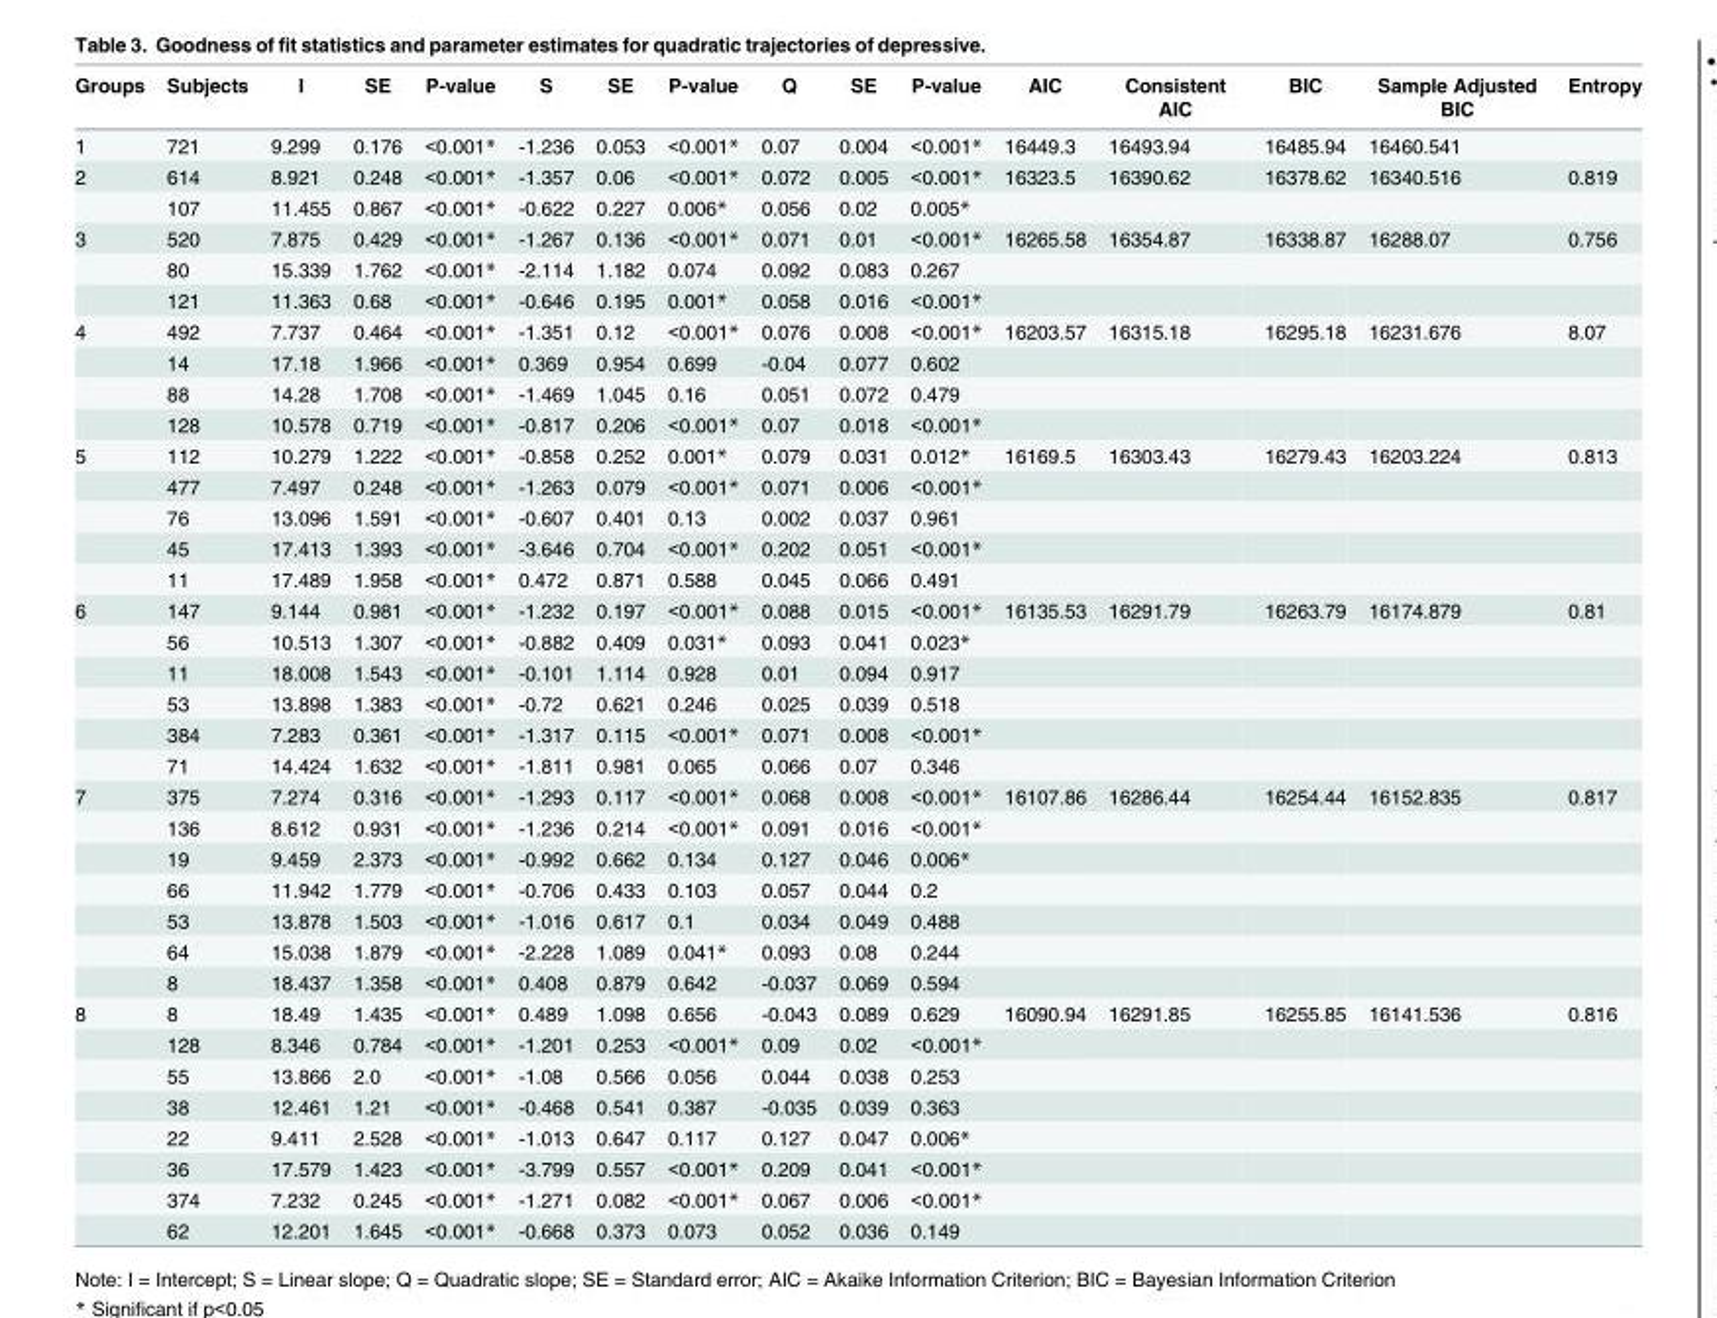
<table><thead><tr><td>Groups</td><td>Subjects</td><td>I</td><td>SE</td><td>P-value</td><td>S</td><td>SE</td><td>P-value</td><td>Q</td><td>SE</td><td>P-value</td><td>AIC</td><td>Consistent AIC</td><td>BIC</td><td>Sample Adjusted BIC</td><td>Entropy</td></tr></thead><tbody><tr><td>1</td><td>721</td><td>9.299</td><td>0.176</td><td>&lt;0.001*</td><td>-1.236</td><td>0.053</td><td>&lt;0.001*</td><td>0.07</td><td>0.004</td><td>&lt;0.001*</td><td>16449.3</td><td>16493.94</td><td>16485.94</td><td>16460.541</td><td></td></tr><tr><td rowspan="2">2</td><td>614</td><td>8.921</td><td>0.248</td><td>&lt;0.001*</td><td>-1.357</td><td>0.06</td><td>&lt;0.001*</td><td>0.072</td><td>0.005</td><td>&lt;0.001*</td><td>16323.5</td><td>16390.62</td><td>16378.62</td><td>16340.516</td><td>0.819</td></tr><tr><td>107</td><td>11.455</td><td>0.867</td><td>&lt;0.001*</td><td>-0.622</td><td>0.227</td><td>0.006*</td><td>0.056</td><td>0.02</td><td>0.005*</td><td></td><td></td><td></td><td></td><td></td></tr><tr><td rowspan="3">3</td><td>520</td><td>7.875</td><td>0.429</td><td>&lt;0.001*</td><td>-1.267</td><td>0.136</td><td>&lt;0.001*</td><td>0.071</td><td>0.01</td><td>&lt;0.001*</td><td>16265.58</td><td>16354.87</td><td>16338.87</td><td>16288.07</td><td>0.756</td></tr><tr><td>80</td><td>15.339</td><td>1.762</td><td>&lt;0.001*</td><td>-2.114</td><td>1.182</td><td>0.074</td><td>0.092</td><td>0.083</td><td>0.267</td><td></td><td></td><td></td><td></td><td></td></tr><tr><td>121</td><td>11.363</td><td>0.68</td><td>&lt;0.001*</td><td>-0.646</td><td>0.195</td><td>0.001*</td><td>0.058</td><td>0.016</td><td>&lt;0.001*</td><td></td><td></td><td></td><td></td><td></td></tr><tr><td rowspan="4">4</td><td>492</td><td>7.737</td><td>0.464</td><td>&lt;0.001*</td><td>-1.351</td><td>0.12</td><td>&lt;0.001*</td><td>0.076</td><td>0.008</td><td>&lt;0.001*</td><td>16203.57</td><td>16315.18</td><td>16295.18</td><td>16231.676</td><td>8.07</td></tr><tr><td>14</td><td>17.18</td><td>1.966</td><td>&lt;0.001*</td><td>0.369</td><td>0.954</td><td>0.699</td><td>-0.04</td><td>0.077</td><td>0.602</td><td></td><td></td><td></td><td></td><td></td></tr><tr><td>88</td><td>14.28</td><td>1.708</td><td>&lt;0.001*</td><td>-1.469</td><td>1.045</td><td>0.16</td><td>0.051</td><td>0.072</td><td>0.479</td><td></td><td></td><td></td><td></td><td></td></tr><tr><td>128</td><td>10.578</td><td>0.719</td><td>&lt;0.001*</td><td>-0.817</td><td>0.206</td><td>&lt;0.001*</td><td>0.07</td><td>0.018</td><td>&lt;0.001*</td><td></td><td></td><td></td><td></td><td></td></tr><tr><td rowspan="5">5</td><td>112</td><td>10.279</td><td>1.222</td><td>&lt;0.001*</td><td>-0.858</td><td>0.252</td><td>0.001*</td><td>0.079</td><td>0.031</td><td>0.012*</td><td>16169.5</td><td>16303.43</td><td>16279.43</td><td>16203.224</td><td>0.813</td></tr><tr><td>477</td><td>7.497</td><td>0.248</td><td>&lt;0.001*</td><td>-1.263</td><td>0.079</td><td>&lt;0.001*</td><td>0.071</td><td>0.006</td><td>&lt;0.001*</td><td></td><td></td><td></td><td></td><td></td></tr><tr><td>76</td><td>13.096</td><td>1.591</td><td>&lt;0.001*</td><td>-0.607</td><td>0.401</td><td>0.13</td><td>0.002</td><td>0.037</td><td>0.961</td><td></td><td></td><td></td><td></td><td></td></tr><tr><td>45</td><td>17.413</td><td>1.393</td><td>&lt;0.001*</td><td>-3.646</td><td>0.704</td><td>&lt;0.001*</td><td>0.202</td><td>0.051</td><td>&lt;0.001*</td><td></td><td></td><td></td><td></td><td></td></tr><tr><td>11</td><td>17.489</td><td>1.958</td><td>&lt;0.001*</td><td>0.472</td><td>0.871</td><td>0.588</td><td>0.045</td><td>0.066</td><td>0.491</td><td></td><td></td><td></td><td></td><td></td></tr><tr><td rowspan="6">6</td><td>147</td><td>9.144</td><td>0.981</td><td>&lt;0.001*</td><td>-1.232</td><td>0.197</td><td>&lt;0.001*</td><td>0.088</td><td>0.015</td><td>&lt;0.001*</td><td>16135.53</td><td>16291.79</td><td>16263.79</td><td>16174.879</td><td>0.81</td></tr><tr><td>56</td><td>10.513</td><td>1.307</td><td>&lt;0.001*</td><td>-0.882</td><td>0.409</td><td>0.031*</td><td>0.093</td><td>0.041</td><td>0.023*</td><td></td><td></td><td></td><td></td><td></td></tr><tr><td>11</td><td>18.008</td><td>1.543</td><td>&lt;0.001*</td><td>-0.101</td><td>1.114</td><td>0.928</td><td>0.01</td><td>0.094</td><td>0.917</td><td></td><td></td><td></td><td></td><td></td></tr><tr><td>53</td><td>13.898</td><td>1.383</td><td>&lt;0.001*</td><td>-0.72</td><td>0.621</td><td>0.246</td><td>0.025</td><td>0.039</td><td>0.518</td><td></td><td></td><td></td><td></td><td></td></tr><tr><td>384</td><td>7.283</td><td>0.361</td><td>&lt;0.001*</td><td>-1.317</td><td>0.115</td><td>&lt;0.001*</td><td>0.071</td><td>0.008</td><td>&lt;0.001*</td><td></td><td></td><td></td><td></td><td></td></tr><tr><td>71</td><td>14.424</td><td>1.632</td><td>&lt;0.001*</td><td>-1.811</td><td>0.981</td><td>0.065</td><td>0.066</td><td>0.07</td><td>0.346</td><td></td><td></td><td></td><td></td><td></td></tr><tr><td rowspan="7">7</td><td>375</td><td>7.274</td><td>0.316</td><td>&lt;0.001*</td><td>-1.293</td><td>0.117</td><td>&lt;0.001*</td><td>0.068</td><td>0.008</td><td>&lt;0.001*</td><td>16107.86</td><td>16286.44</td><td>16254.44</td><td>16152.835</td><td>0.817</td></tr><tr><td>136</td><td>8.612</td><td>0.931</td><td>&lt;0.001*</td><td>-1.236</td><td>0.214</td><td>&lt;0.001*</td><td>0.091</td><td>0.016</td><td>&lt;0.001*</td><td></td><td></td><td></td><td></td><td></td></tr><tr><td>19</td><td>9.459</td><td>2.373</td><td>&lt;0.001*</td><td>-0.992</td><td>0.662</td><td>0.134</td><td>0.127</td><td>0.046</td><td>0.006*</td><td></td><td></td><td></td><td></td><td></td></tr><tr><td>66</td><td>11.942</td><td>1.779</td><td>&lt;0.001*</td><td>-0.706</td><td>0.433</td><td>0.103</td><td>0.057</td><td>0.044</td><td>0.2</td><td></td><td></td><td></td><td></td><td></td></tr><tr><td>53</td><td>13.878</td><td>1.503</td><td>&lt;0.001*</td><td>-1.016</td><td>0.617</td><td>0.1</td><td>0.034</td><td>0.049</td><td>0.488</td><td></td><td></td><td></td><td></td><td></td></tr><tr><td>64</td><td>15.038</td><td>1.879</td><td>&lt;0.001*</td><td>-2.228</td><td>1.089</td><td>0.041*</td><td>0.093</td><td>0.08</td><td>0.244</td><td></td><td></td><td></td><td></td><td></td></tr><tr><td>8</td><td>18.437</td><td>1.358</td><td>&lt;0.001*</td><td>0.408</td><td>0.879</td><td>0.642</td><td>-0.037</td><td>0.069</td><td>0.594</td><td></td><td></td><td></td><td></td><td></td></tr><tr><td rowspan="8">8</td><td>8</td><td>18.49</td><td>1.435</td><td>&lt;0.001*</td><td>0.489</td><td>1.098</td><td>0.656</td><td>-0.043</td><td>0.089</td><td>0.629</td><td>16090.94</td><td>16291.85</td><td>16255.85</td><td>16141.536</td><td>0.816</td></tr><tr><td>128</td><td>8.346</td><td>0.784</td><td>&lt;0.001*</td><td>-1.201</td><td>0.253</td><td>&lt;0.001*</td><td>0.09</td><td>0.02</td><td>&lt;0.001*</td><td></td><td></td><td></td><td></td><td></td></tr><tr><td>55</td><td>13.866</td><td>2.0</td><td>&lt;0.001*</td><td>-1.08</td><td>0.566</td><td>0.056</td><td>0.044</td><td>0.038</td><td>0.253</td><td></td><td></td><td></td><td></td><td></td></tr><tr><td>38</td><td>12.461</td><td>1.21</td><td>&lt;0.001*</td><td>-0.468</td><td>0.541</td><td>0.387</td><td>-0.035</td><td>0.039</td><td>0.363</td><td></td><td></td><td></td><td></td><td></td></tr><tr><td>22</td><td>9.411</td><td>2.528</td><td>&lt;0.001*</td><td>-1.013</td><td>0.647</td><td>0.117</td><td>0.127</td><td>0.047</td><td>0.006*</td><td></td><td></td><td></td><td></td><td></td></tr><tr><td>36</td><td>17.579</td><td>1.423</td><td>&lt;0.001*</td><td>-3.799</td><td>0.557</td><td>&lt;0.001*</td><td>0.209</td><td>0.041</td><td>&lt;0.001*</td><td></td><td></td><td></td><td></td><td></td></tr><tr><td>374</td><td>7.232</td><td>0.245</td><td>&lt;0.001*</td><td>-1.271</td><td>0.082</td><td>&lt;0.001*</td><td>0.067</td><td>0.006</td><td>&lt;0.001*</td><td></td><td></td><td></td><td></td><td></td></tr><tr><td>62</td><td>12.201</td><td>1.645</td><td>&lt;0.001*</td><td>-0.668</td><td>0.373</td><td>0.073</td><td>0.052</td><td>0.036</td><td>0.149</td><td></td><td></td><td></td><td></td><td></td></tr></tbody></table>